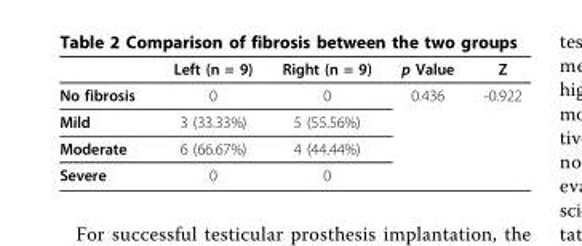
<table><thead><tr><td></td><td>Left (n = 9)</td><td>Right (n = 9)</td><td>p Value</td><td>Z</td></tr></thead><tbody><tr><td>No fibrosis</td><td>0</td><td>0</td><td>0.436</td><td>-0.922</td></tr><tr><td>Mild</td><td>3 (33.33%)</td><td>5 (55.56%)</td><td></td><td></td></tr><tr><td>Moderate</td><td>6 (66.67%)</td><td>4 (44.44%)</td><td></td><td></td></tr><tr><td>Severe</td><td>0</td><td>0</td><td></td><td></td></tr></tbody></table>